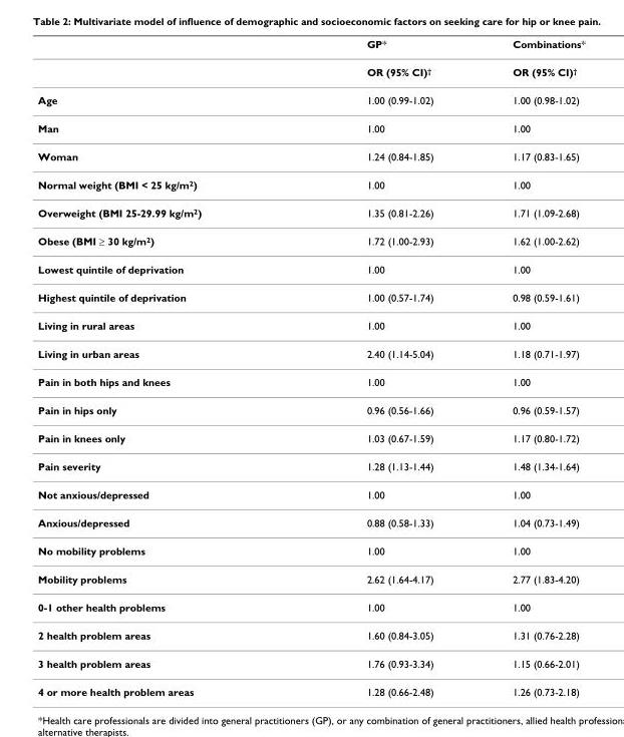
<table><thead><tr><td></td><td>GP*</td><td>Combinations*</td></tr></thead><tbody><tr><td></td><td>OR (95% CI)†</td><td>OR (95% CI)†</td></tr><tr><td>Age</td><td>1.00 (0.99-1.02)</td><td>1.00 (0.98-1.02)</td></tr><tr><td>Man</td><td>1.00</td><td>1.00</td></tr><tr><td>Woman</td><td>1.24 (0.84-1.85)</td><td>1.17 (0.83-1.65)</td></tr><tr><td>Normal weight (BMI &lt; 25 kg/m2)</td><td>1.00</td><td>1.00</td></tr><tr><td>Overweight (BMI 25-29.99 kg/m2)</td><td>1.35 (0.81-2.26)</td><td>1.71 (1.09-2.68)</td></tr><tr><td>Obese (BMI ≥ 30 kg/m2)</td><td>1.72 (1.00-2.93)</td><td>1.62 (1.00-2.62)</td></tr><tr><td>Lowest quintile of deprivation</td><td>1.00</td><td>1.00</td></tr><tr><td>Highest quintile of deprivation</td><td>1.00 (0.57-1.74)</td><td>0.98 (0.59-1.61)</td></tr><tr><td>Living in rural areas</td><td>1.00</td><td>1.00</td></tr><tr><td>Living in urban areas</td><td>2.40 (1.14-5.04)</td><td>1.18 (0.71-1.97)</td></tr><tr><td>Pain in both hips and knees</td><td>1.00</td><td>1.00</td></tr><tr><td>Pain in hips only</td><td>0.96 (0.56-1.66)</td><td>0.96 (0.59-1.57)</td></tr><tr><td>Pain in knees only</td><td>1.03 (0.67-1.59)</td><td>1.17 (0.80-1.72)</td></tr><tr><td>Pain severity</td><td>1.28 (1.13-1.44)</td><td>1.48 (1.34-1.64)</td></tr><tr><td>Not anxious/depressed</td><td>1.00</td><td>1.00</td></tr><tr><td>Anxious/depressed</td><td>0.88 (0.58-1.33)</td><td>1.04 (0.73-1.49)</td></tr><tr><td>No mobility problems</td><td>1.00</td><td>1.00</td></tr><tr><td>Mobility problems</td><td>2.62 (1.64-4.17)</td><td>2.77 (1.83-4.20)</td></tr><tr><td>0-1 other health problems</td><td>1.00</td><td>1.00</td></tr><tr><td>2 health problem areas</td><td>1.60 (0.84-3.05)</td><td>1.31 (0.76-2.28)</td></tr><tr><td>3 health problem areas</td><td>1.76 (0.93-3.34)</td><td>1.15 (0.66-2.01)</td></tr><tr><td>4 or more health problem areas</td><td>1.28 (0.66-2.48)</td><td>1.26 (0.73-2.18)</td></tr></tbody></table>